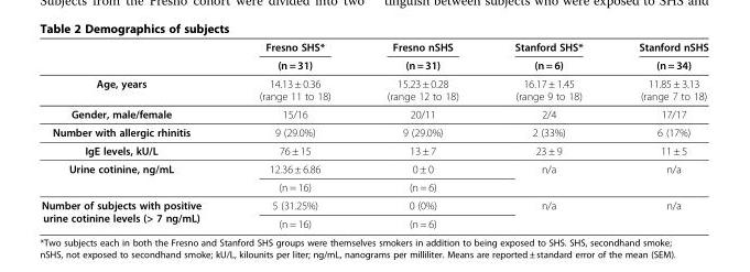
<table><thead><tr><td rowspan="2"></td><td rowspan="2">Fresno SHS* (n = 31)</td><td rowspan="2">Fresno nSHS (n = 31)</td><td rowspan="2">Stanford SHS* (n = 6)</td><td rowspan="2">Stanford nSHS (n = 34)</td></tr><tr></tr></thead><tbody><tr><td>Age, years</td><td>14.13 ± 0.36 (range 11 to 18)</td><td>15.23 ± 0.28 (range 12 to 18)</td><td>16.17 ± 1.45 (range 9 to 18)</td><td>11.85 ± 3.13 (range 7 to 18)</td></tr><tr><td>Gender, male/female</td><td>15/16</td><td>20/11</td><td>2/4</td><td>17/17</td></tr><tr><td>Number with allergic rhinitis</td><td>9 (29.0%)</td><td>9 (29.0%)</td><td>2 (33%)</td><td>6 (17%)</td></tr><tr><td>IgE levels, kU/L</td><td>76 ± 15</td><td>13 ± 7</td><td>23 ± 9</td><td>11 ± 5</td></tr><tr><td rowspan="2">Urine cotinine, ng/mL</td><td>12.36 ± 6.86</td><td>0 ± 0</td><td rowspan="2">n/a</td><td rowspan="2">n/a</td></tr><tr><td>(n = 16)</td><td>(n = 6)</td></tr><tr><td rowspan="2">Number of subjects with positive urine cotinine levels (&gt; 7 ng/mL)</td><td>5 (31.25%)</td><td>0 (0%)</td><td rowspan="2">n/a</td><td rowspan="2">n/a</td></tr><tr><td>(n = 16)</td><td>(n = 6)</td></tr></tbody></table>